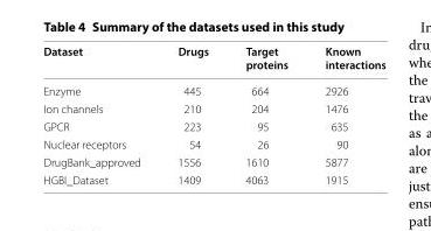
<table><thead><tr><td>Dataset</td><td>Drugs</td><td>Target proteins</td><td>Known interactions</td></tr></thead><tbody><tr><td>Enzyme</td><td>445</td><td>664</td><td>2926</td></tr><tr><td>Ion channels</td><td>210</td><td>204</td><td>1476</td></tr><tr><td>GPCR</td><td>223</td><td>95</td><td>635</td></tr><tr><td>Nuclear receptors</td><td>54</td><td>26</td><td>90</td></tr><tr><td>DrugBank_approved</td><td>1556</td><td>1610</td><td>5877</td></tr><tr><td>HGBI_Dataset</td><td>1409</td><td>4063</td><td>1915</td></tr></tbody></table>